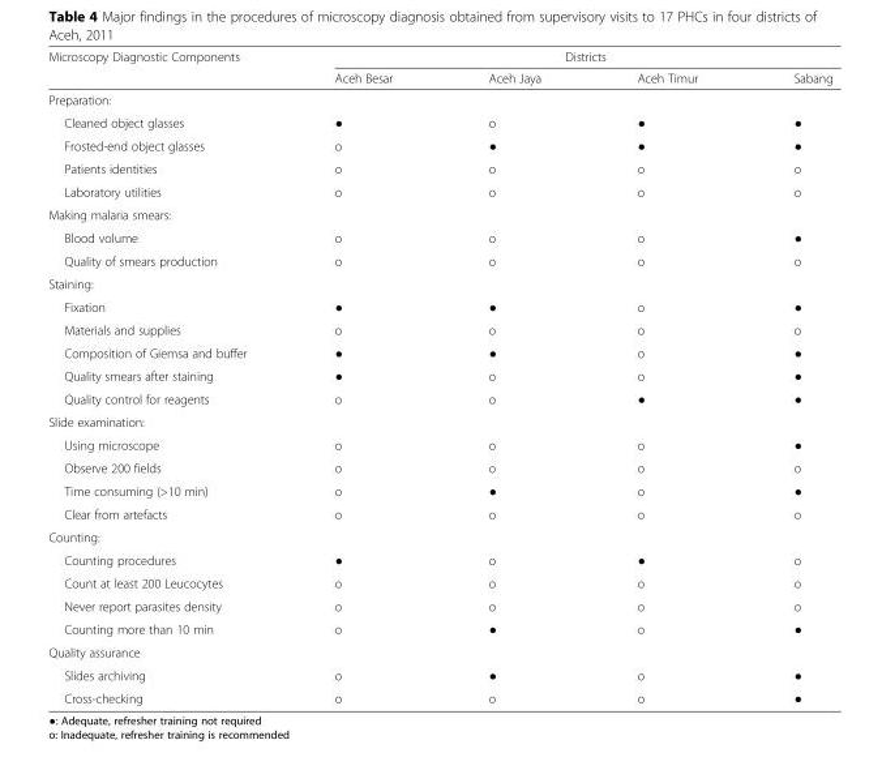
<table><thead><tr><td rowspan="2">Microscopy Diagnostic Components</td><td colspan="4">Districts</td></tr><tr><td>Aceh Besar</td><td>Aceh Jaya</td><td>Aceh Timur</td><td>Sabang</td></tr></thead><tbody><tr><td colspan="5">Preparation:</td></tr><tr><td>Cleaned object glasses</td><td>●</td><td>o</td><td>●</td><td>●</td></tr><tr><td>Frosted-end object glasses</td><td>o</td><td>●</td><td>●</td><td>●</td></tr><tr><td>Patients identities</td><td>o</td><td>o</td><td>o</td><td>o</td></tr><tr><td>Laboratory utilities</td><td>o</td><td>o</td><td>o</td><td>o</td></tr><tr><td colspan="5">Making malaria smears:</td></tr><tr><td>Blood volume</td><td>o</td><td>o</td><td>o</td><td>●</td></tr><tr><td>Quality of smears production</td><td>o</td><td>o</td><td>o</td><td>o</td></tr><tr><td colspan="5">Staining:</td></tr><tr><td>Fixation</td><td>●</td><td>●</td><td>o</td><td>●</td></tr><tr><td>Materials and supplies</td><td>o</td><td>o</td><td>o</td><td>o</td></tr><tr><td>Composition of Giemsa and buffer</td><td>●</td><td>●</td><td>o</td><td>●</td></tr><tr><td>Quality smears after staining</td><td>●</td><td>o</td><td>o</td><td>●</td></tr><tr><td>Quality control for reagents</td><td>o</td><td>o</td><td>●</td><td>●</td></tr><tr><td colspan="5">Slide examination:</td></tr><tr><td>Using microscope</td><td>o</td><td>o</td><td>o</td><td>●</td></tr><tr><td>Observe 200 fields</td><td>o</td><td>o</td><td>o</td><td>o</td></tr><tr><td>Time consuming (&gt;10 min)</td><td>o</td><td>●</td><td>o</td><td>●</td></tr><tr><td>Clear from artefacts</td><td>o</td><td>o</td><td>o</td><td>o</td></tr><tr><td colspan="5">Counting:</td></tr><tr><td>Counting procedures</td><td>●</td><td>o</td><td>●</td><td>o</td></tr><tr><td>Count at least 200 Leucocytes</td><td>o</td><td>o</td><td>o</td><td>o</td></tr><tr><td>Never report parasites density</td><td>o</td><td>o</td><td>o</td><td>o</td></tr><tr><td>Counting more than 10 min</td><td>o</td><td>●</td><td>o</td><td>●</td></tr><tr><td colspan="5">Quality assurance</td></tr><tr><td>Slides archiving</td><td>o</td><td>●</td><td>o</td><td>●</td></tr><tr><td>Cross-checking</td><td>o</td><td>o</td><td>o</td><td>●</td></tr></tbody></table>